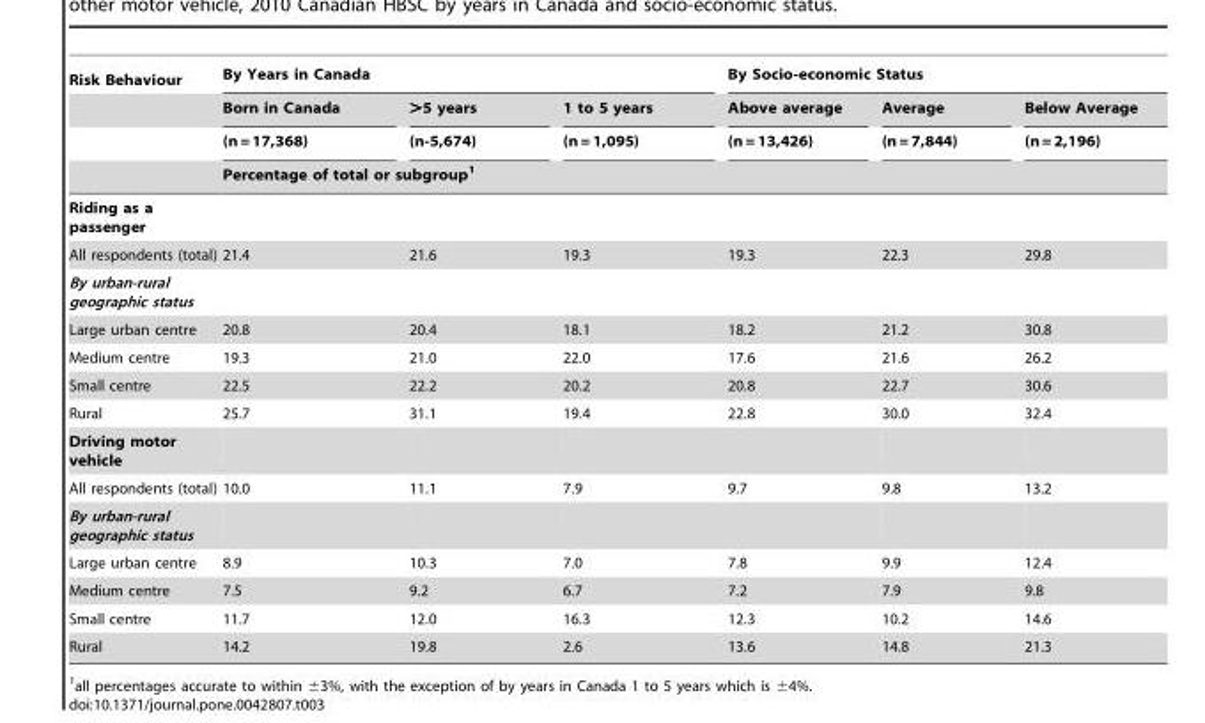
<table><thead><tr><td rowspan="4">Risk Behaviour</td><td colspan="3">By Years in Canada</td><td colspan="3">By Socio-economic Status</td></tr><tr><td rowspan="2">Born in Canada (n = 17,368)</td><td rowspan="2">&gt;5 years (n-5,674)</td><td rowspan="2">1 to 5 years (n = 1,095)</td><td rowspan="2">Above average (n = 13,426)</td><td rowspan="2">Average (n = 7,844)</td><td rowspan="2">Below Average (n = 2,196)</td></tr><tr></tr><tr><td colspan="6">Percentage of total or subgroup<sup>1</sup></td></tr></thead><tbody><tr><td colspan="7">Riding as a passenger</td></tr><tr><td>All respondents (total)</td><td>21.4</td><td>21.6</td><td>19.3</td><td>19.3</td><td>22.3</td><td>29.8</td></tr><tr><td colspan="7">By urban-rural geographic status</td></tr><tr><td>Large urban centre</td><td>20.8</td><td>20.4</td><td>18.1</td><td>18.2</td><td>21.2</td><td>30.8</td></tr><tr><td>Medium centre</td><td>19.3</td><td>21.0</td><td>22.0</td><td>17.6</td><td>21.6</td><td>26.2</td></tr><tr><td>Small centre</td><td>22.5</td><td>22.2</td><td>20.2</td><td>20.8</td><td>22.7</td><td>30.6</td></tr><tr><td>Rural</td><td>25.7</td><td>31.1</td><td>19.4</td><td>22.8</td><td>30.0</td><td>32.4</td></tr><tr><td colspan="7">Driving motor vehicle</td></tr><tr><td>All respondents (total)</td><td>10.0</td><td>11.1</td><td>7.9</td><td>9.7</td><td>9.8</td><td>13.2</td></tr><tr><td colspan="7">By urban-rural geographic status</td></tr><tr><td>Large urban centre</td><td>8.9</td><td>10.3</td><td>7.0</td><td>7.8</td><td>9.9</td><td>12.4</td></tr><tr><td>Medium centre</td><td>7.5</td><td>9.2</td><td>6.7</td><td>7.2</td><td>7.9</td><td>9.8</td></tr><tr><td>Small centre</td><td>11.7</td><td>12.0</td><td>16.3</td><td>12.3</td><td>10.2</td><td>14.6</td></tr><tr><td>Rural</td><td>14.2</td><td>19.8</td><td>2.6</td><td>13.6</td><td>14.8</td><td>21.3</td></tr></tbody></table>